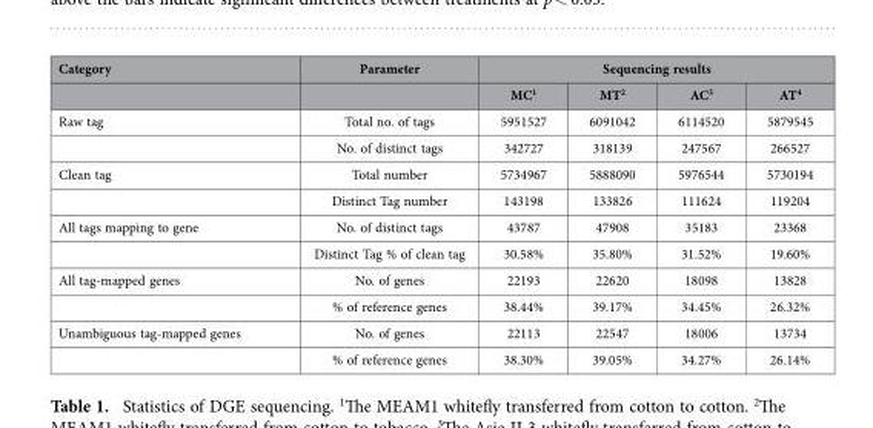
<table><thead><tr><td rowspan="2">Category</td><td rowspan="2">Parameter</td><td colspan="4">Sequencing results</td></tr><tr><td>MC<sup>1</sup></td><td>MT<sup>2</sup></td><td>AC<sup>3</sup></td><td>AT<sup>4</sup></td></tr></thead><tbody><tr><td rowspan="2">Raw tag</td><td>Total no. of tags</td><td>5951527</td><td>6091042</td><td>6114520</td><td>5879545</td></tr><tr><td>No. of distinct tags</td><td>342727</td><td>318139</td><td>247567</td><td>266527</td></tr><tr><td rowspan="2">Clean tag</td><td>Total number</td><td>5734967</td><td>5888090</td><td>5976544</td><td>5730194</td></tr><tr><td>Distinct Tag number</td><td>143198</td><td>133826</td><td>111624</td><td>119204</td></tr><tr><td rowspan="2">All tags mapping to gene</td><td>No. of distinct tags</td><td>43787</td><td>47908</td><td>35183</td><td>23368</td></tr><tr><td>Distinct Tag % of clean tag</td><td>30.58%</td><td>35.80%</td><td>31.52%</td><td>19.60%</td></tr><tr><td rowspan="2">All tag-mapped genes</td><td>No. of genes</td><td>22193</td><td>22620</td><td>18098</td><td>13828</td></tr><tr><td>% of reference genes</td><td>38.44%</td><td>39.17%</td><td>34.45%</td><td>26.32%</td></tr><tr><td rowspan="2">Unambiguous tag-mapped genes</td><td>No. of genes</td><td>22113</td><td>22547</td><td>18006</td><td>13734</td></tr><tr><td>% of reference genes</td><td>38.30%</td><td>39.05%</td><td>34.27%</td><td>26.14%</td></tr></tbody></table>